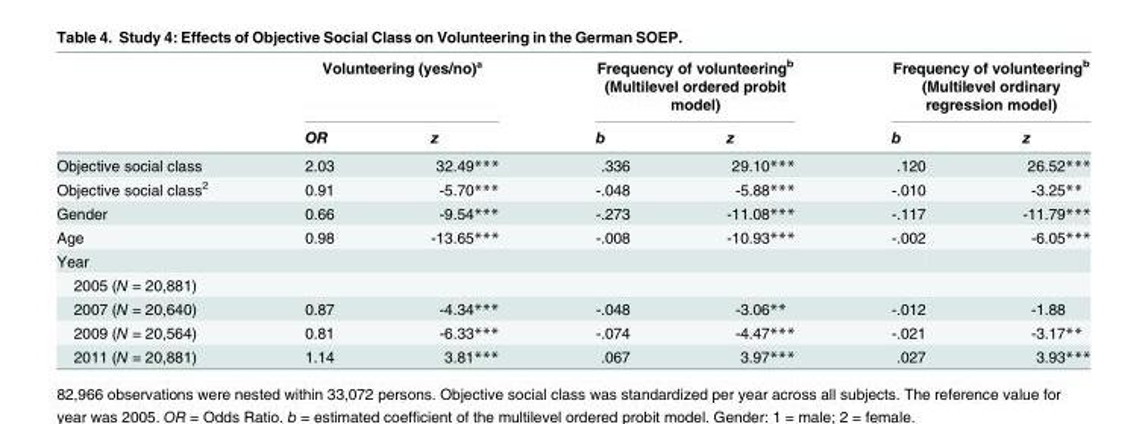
<table><thead><tr><td rowspan="2"></td><td colspan="2">Volunteering (yes/no)ª</td><td colspan="2">Frequency of volunteering<sup>b</sup> (Multilevel ordered probit model)</td><td colspan="2">Frequency of volunteering<sup>b</sup> (Multilevel ordinary regression model)</td></tr><tr><td>OR</td><td>z</td><td>b</td><td>z</td><td>b</td><td>z</td></tr></thead><tbody><tr><td>Objective social class</td><td>2.03</td><td>32.49***</td><td>.336</td><td>29.10***</td><td>.120</td><td>26.52***</td></tr><tr><td>Objective social class<sup>2</sup></td><td>0.91</td><td>-5.70***</td><td>-.048</td><td>-5.88***</td><td>-.010</td><td>-3.25**</td></tr><tr><td>Gender</td><td>0.66</td><td>-9.54***</td><td>-.273</td><td>-11.08***</td><td>-.117</td><td>-11.79***</td></tr><tr><td>Age</td><td>0.98</td><td>-13.65***</td><td>-.008</td><td>-10.93***</td><td>-.002</td><td>-6.05***</td></tr><tr><td colspan="7">Year</td></tr><tr><td colspan="7">2005 (N = 20,881)</td></tr><tr><td>2007 (N = 20,640)</td><td>0.87</td><td>-4.34***</td><td>-.048</td><td>-3.06**</td><td>-.012</td><td>-1.88</td></tr><tr><td>2009 (N = 20,564)</td><td>0.81</td><td>-6.33***</td><td>-.074</td><td>-4.47***</td><td>-.021</td><td>-3.17**</td></tr><tr><td>2011 (N = 20,881)</td><td>1.14</td><td>3.81***</td><td>.067</td><td>3.97***</td><td>.027</td><td>3.93***</td></tr></tbody></table>